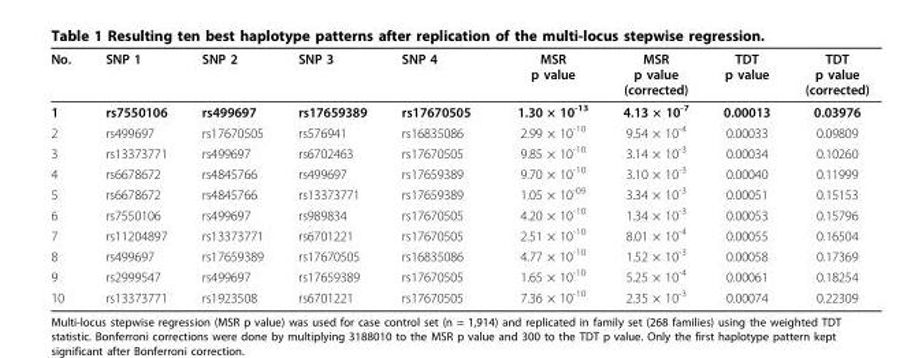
<table><thead><tr><td>No.</td><td>SNP 1</td><td>SNP 2</td><td>SNP 3</td><td>SNP 4</td><td>MSR p value</td><td>MSR p value (corrected)</td><td>TDT p value</td><td>TDT p value (corrected)</td></tr></thead><tbody><tr><td>1</td><td>rs7550106</td><td>rs499697</td><td>rs17659389</td><td>rs17670505</td><td>1.30 × 10<sup>-13</sup></td><td>4.13 × 10<sup>-7</sup></td><td>0.00013</td><td>0.03976</td></tr><tr><td>2</td><td>rs499697</td><td>rs17670505</td><td>rs576941</td><td>rs16835086</td><td>2.99 × 10<sup>-10</sup></td><td>9.54 × 10<sup>-4</sup></td><td>0.00033</td><td>0.09809</td></tr><tr><td>3</td><td>rs13373771</td><td>rs499697</td><td>rs6702463</td><td>rs17670505</td><td>9.85 × 10<sup>-10</sup></td><td>3.14 × 10<sup>-3</sup></td><td>0.00034</td><td>0.10260</td></tr><tr><td>4</td><td>rs6678672</td><td>rs4845766</td><td>rs499697</td><td>rs17659389</td><td>9.70 × 10<sup>-10</sup></td><td>3.10 × 10<sup>-3</sup></td><td>0.00040</td><td>0.11999</td></tr><tr><td>5</td><td>rs6678672</td><td>rs4845766</td><td>rs13373771</td><td>rs17659389</td><td>1.05 × 10<sup>-09</sup></td><td>3.34 × 10<sup>-3</sup></td><td>0.00051</td><td>0.15153</td></tr><tr><td>6</td><td>rs7550106</td><td>rs499697</td><td>rs989834</td><td>rs17670505</td><td>4.20 × 10<sup>-10</sup></td><td>1.34 × 10<sup>-3</sup></td><td>0.00053</td><td>0.15796</td></tr><tr><td>7</td><td>rs11204897</td><td>rs13373771</td><td>rs6701221</td><td>rs17670505</td><td>2.51 × 10<sup>-10</sup></td><td>8.01 × 10<sup>-4</sup></td><td>0.00055</td><td>0.16504</td></tr><tr><td>8</td><td>rs499697</td><td>rs17659389</td><td>rs17670505</td><td>rs16835086</td><td>4.77 × 10<sup>-10</sup></td><td>1.52 × 10<sup>-3</sup></td><td>0.00058</td><td>0.17369</td></tr><tr><td>9</td><td>rs2999547</td><td>rs499697</td><td>rs17659389</td><td>rs17670505</td><td>1.65 × 10<sup>-10</sup></td><td>5.25 × 10<sup>-4</sup></td><td>0.00061</td><td>0.18254</td></tr><tr><td>10</td><td>rs13373771</td><td>rs1923508</td><td>rs6701221</td><td>rs17670505</td><td>7.36 × 10<sup>-10</sup></td><td>2.35 × 10<sup>-3</sup></td><td>0.00074</td><td>0.22309</td></tr></tbody></table>